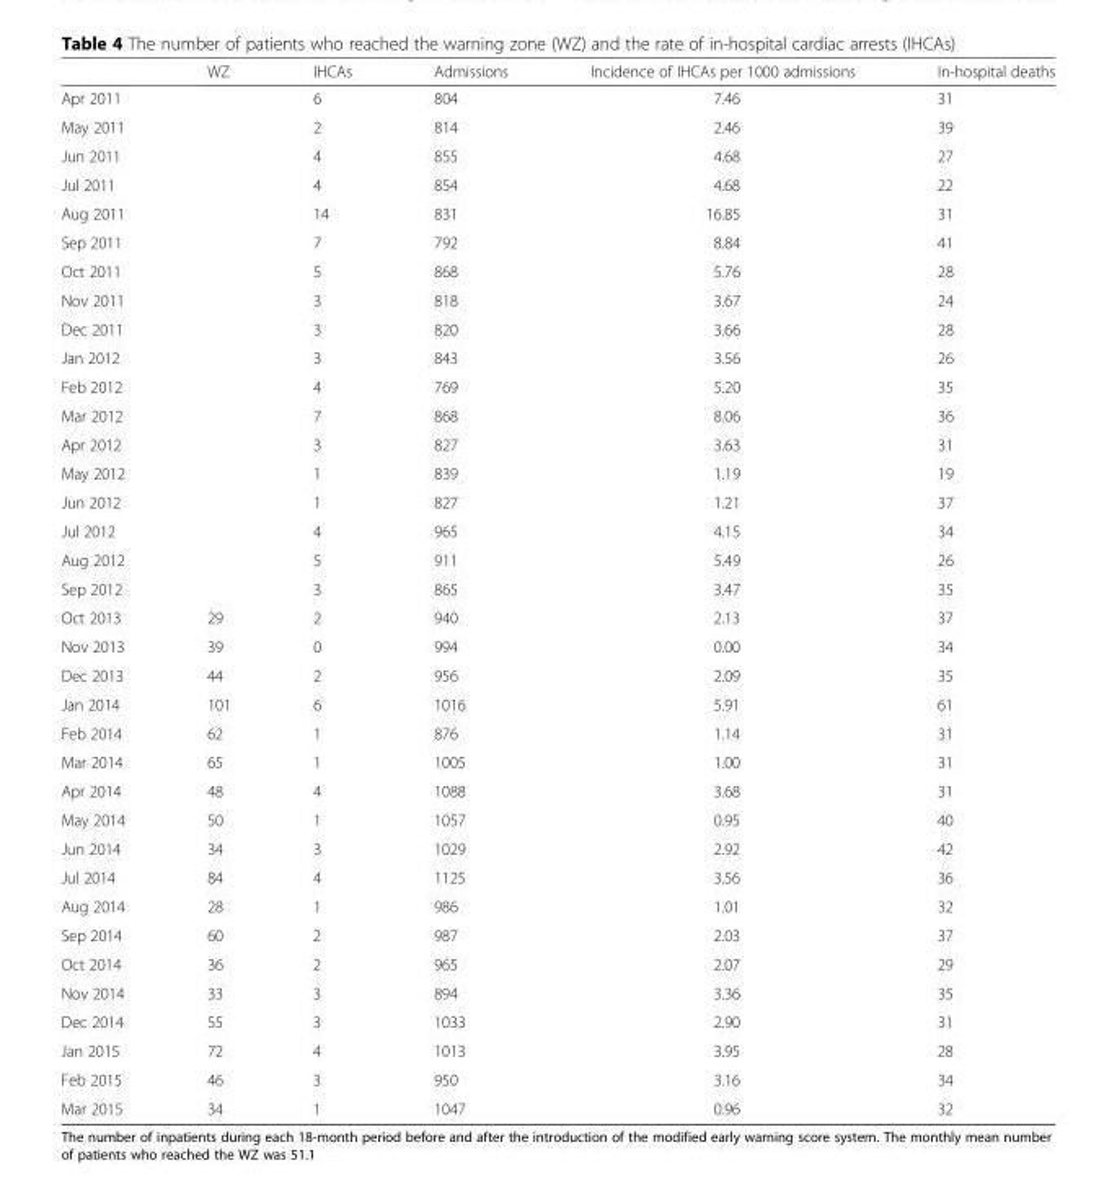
<table><thead><tr><td></td><td>WZ</td><td>IHCAs</td><td>Admissions</td><td>Incidence of IHCAs per 1000 admissions</td><td>In-hospital deaths</td></tr></thead><tbody><tr><td>Apr 2011</td><td></td><td>6</td><td>804</td><td>7.46</td><td>31</td></tr><tr><td>May 2011</td><td></td><td>2</td><td>814</td><td>2.46</td><td>39</td></tr><tr><td>Jun 2011</td><td></td><td>4</td><td>855</td><td>4.68</td><td>27</td></tr><tr><td>Jul 2011</td><td></td><td>4</td><td>854</td><td>4.68</td><td>22</td></tr><tr><td>Aug 2011</td><td></td><td>14</td><td>831</td><td>16.85</td><td>31</td></tr><tr><td>Sep 2011</td><td></td><td>7</td><td>792</td><td>8.84</td><td>41</td></tr><tr><td>Oct 2011</td><td></td><td>5</td><td>868</td><td>5.76</td><td>28</td></tr><tr><td>Nov 2011</td><td></td><td>3</td><td>818</td><td>3.67</td><td>24</td></tr><tr><td>Dec 2011</td><td></td><td>3</td><td>820</td><td>3.66</td><td>28</td></tr><tr><td>Jan 2012</td><td></td><td>3</td><td>843</td><td>3.56</td><td>26</td></tr><tr><td>Feb 2012</td><td></td><td>4</td><td>769</td><td>5.20</td><td>35</td></tr><tr><td>Mar 2012</td><td></td><td>7</td><td>868</td><td>8.06</td><td>36</td></tr><tr><td>Apr 2012</td><td></td><td>3</td><td>827</td><td>3.63</td><td>31</td></tr><tr><td>May 2012</td><td></td><td>1</td><td>839</td><td>1.19</td><td>19</td></tr><tr><td>Jun 2012</td><td></td><td>1</td><td>827</td><td>1.21</td><td>37</td></tr><tr><td>Jul 2012</td><td></td><td>4</td><td>965</td><td>4.15</td><td>34</td></tr><tr><td>Aug 2012</td><td></td><td>5</td><td>911</td><td>5.49</td><td>26</td></tr><tr><td>Sep 2012</td><td></td><td>3</td><td>865</td><td>3.47</td><td>35</td></tr><tr><td>Oct 2013</td><td>29</td><td>2</td><td>940</td><td>2.13</td><td>37</td></tr><tr><td>Nov 2013</td><td>39</td><td>0</td><td>994</td><td>0.00</td><td>34</td></tr><tr><td>Dec 2013</td><td>44</td><td>2</td><td>956</td><td>2.09</td><td>35</td></tr><tr><td>Jan 2014</td><td>101</td><td>6</td><td>1016</td><td>5.91</td><td>61</td></tr><tr><td>Feb 2014</td><td>62</td><td>1</td><td>876</td><td>1.14</td><td>31</td></tr><tr><td>Mar 2014</td><td>65</td><td>1</td><td>1005</td><td>1.00</td><td>31</td></tr><tr><td>Apr 2014</td><td>48</td><td>4</td><td>1088</td><td>3.68</td><td>31</td></tr><tr><td>May 2014</td><td>50</td><td>1</td><td>1057</td><td>0.95</td><td>40</td></tr><tr><td>Jun 2014</td><td>34</td><td>3</td><td>1029</td><td>2.92</td><td>42</td></tr><tr><td>Jul 2014</td><td>84</td><td>4</td><td>1125</td><td>3.56</td><td>36</td></tr><tr><td>Aug 2014</td><td>28</td><td>1</td><td>986</td><td>1.01</td><td>32</td></tr><tr><td>Sep 2014</td><td>60</td><td>2</td><td>987</td><td>2.03</td><td>37</td></tr><tr><td>Oct 2014</td><td>36</td><td>2</td><td>965</td><td>2.07</td><td>29</td></tr><tr><td>Nov 2014</td><td>33</td><td>3</td><td>894</td><td>3.36</td><td>35</td></tr><tr><td>Dec 2014</td><td>55</td><td>3</td><td>1033</td><td>2.90</td><td>31</td></tr><tr><td>Jan 2015</td><td>72</td><td>4</td><td>1013</td><td>3.95</td><td>28</td></tr><tr><td>Feb 2015</td><td>46</td><td>3</td><td>950</td><td>3.16</td><td>34</td></tr><tr><td>Mar 2015</td><td>34</td><td>1</td><td>1047</td><td>0.96</td><td>32</td></tr></tbody></table>